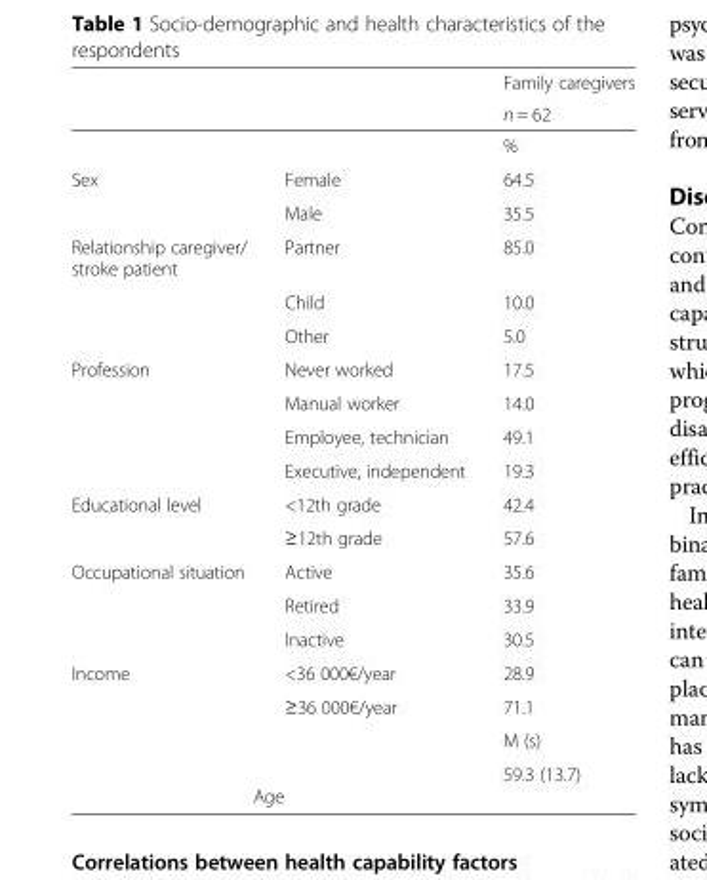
<table><thead><tr><td rowspan="2"></td><td rowspan="2"></td><td rowspan="2">Family caregivers n = 62</td></tr><tr></tr></thead><tbody><tr><td></td><td></td><td>%</td></tr><tr><td rowspan="2">Sex</td><td>Female</td><td>64.5</td></tr><tr><td>Male</td><td>35.5</td></tr><tr><td rowspan="3">Relationship caregiver/ stroke patient</td><td>Partner</td><td>85.0</td></tr><tr><td>Child</td><td>10.0</td></tr><tr><td>Other</td><td>5.0</td></tr><tr><td rowspan="4">Profession</td><td>Never worked</td><td>17.5</td></tr><tr><td>Manual worker</td><td>14.0</td></tr><tr><td>Employee, technician</td><td>49.1</td></tr><tr><td>Executive, independent</td><td>19.3</td></tr><tr><td rowspan="2">Educational level</td><td>&lt;12th grade</td><td>42.4</td></tr><tr><td>≥12th grade</td><td>57.6</td></tr><tr><td rowspan="3">Occupational situation</td><td>Active</td><td>35.6</td></tr><tr><td>Retired</td><td>33.9</td></tr><tr><td>Inactive</td><td>30.5</td></tr><tr><td rowspan="2">Income</td><td>&lt;36 000€/year</td><td>28.9</td></tr><tr><td>≥36 000€/year</td><td>71.1</td></tr><tr><td colspan="2"></td><td>M (s)</td></tr><tr><td colspan="2">Age</td><td>59.3 (13.7)</td></tr></tbody></table>